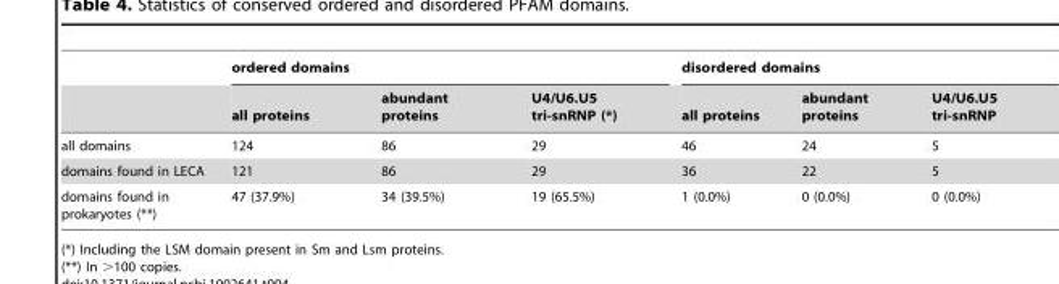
<table><thead><tr><td rowspan="2"></td><td colspan="3">ordered domains</td><td colspan="3">disordered domains</td></tr><tr><td>all proteins</td><td>abundant proteins</td><td>U4/U6.U5 tri-snRNP (*)</td><td>all proteins</td><td>abundant proteins</td><td>U4/U6.U5 tri-snRNP</td></tr></thead><tbody><tr><td>all domains</td><td>124</td><td>86</td><td>29</td><td>46</td><td>24</td><td>5</td></tr><tr><td>domains found in LECA</td><td>121</td><td>86</td><td>29</td><td>36</td><td>22</td><td>5</td></tr><tr><td>domains found in prokaryotes (**)</td><td>47 (37.9%)</td><td>34 (39.5%)</td><td>19 (65.5%)</td><td>1 (0.0%)</td><td>0 (0.0%)</td><td>0 (0.0%)</td></tr></tbody></table>